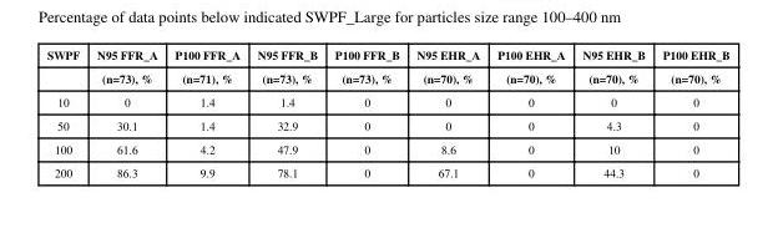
<table><thead><tr><td rowspan="2">SWPF</td><td rowspan="2">N95 FFR_A (n=73), %</td><td rowspan="2">P100 FFR_A (n=71), %</td><td rowspan="2">N95 FFR_B (n=73), %</td><td rowspan="2">P100 FFR_B (n=73), %</td><td rowspan="2">N95 EHR_A (n=70), %</td><td rowspan="2">P100 EHR_A (n=70), %</td><td rowspan="2">N95 EHR_B (n=70), %</td><td rowspan="2">P100 EHR_B (n=70), %</td></tr><tr></tr></thead><tbody><tr><td>10</td><td>0</td><td>1.4</td><td>1.4</td><td>0</td><td>0</td><td>0</td><td>0</td><td>0</td></tr><tr><td>50</td><td>30.1</td><td>1.4</td><td>32.9</td><td>0</td><td>0</td><td>0</td><td>4.3</td><td>0</td></tr><tr><td>100</td><td>61.6</td><td>4.2</td><td>47.9</td><td>0</td><td>8.6</td><td>0</td><td>10</td><td>0</td></tr><tr><td>200</td><td>86.3</td><td>9.9</td><td>78.1</td><td>0</td><td>67.1</td><td>0</td><td>44.3</td><td>0</td></tr></tbody></table>